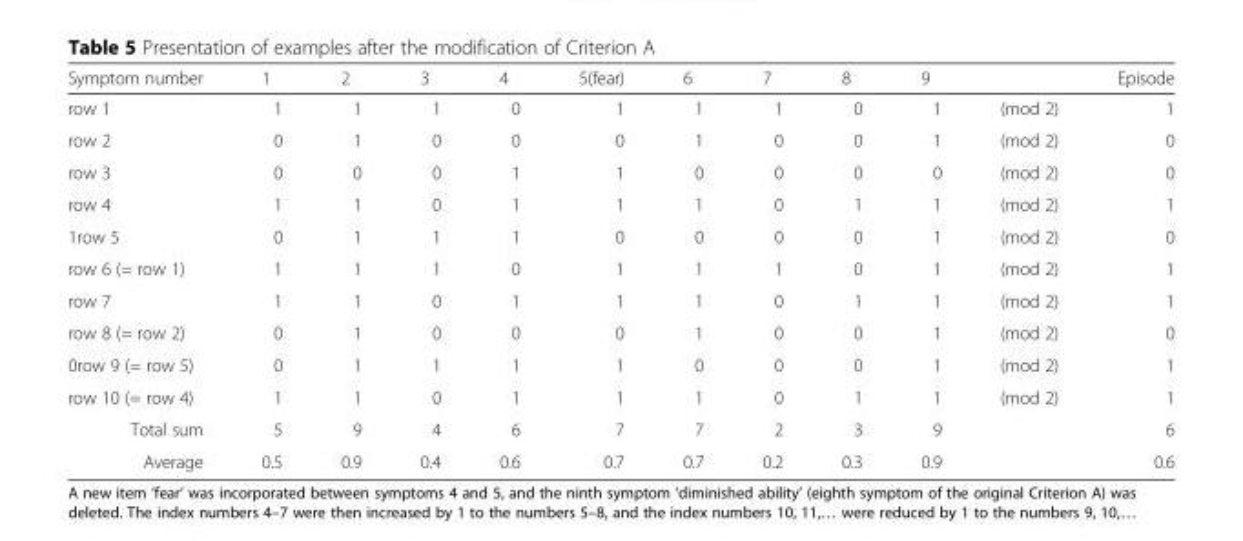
<table><thead><tr><td>Symptom number</td><td>1</td><td>2</td><td>3</td><td>4</td><td>5(fear)</td><td>6</td><td>7</td><td>8</td><td>9</td><td></td><td>Episode</td></tr></thead><tbody><tr><td>row 1</td><td>1</td><td>1</td><td>1</td><td>0</td><td>1</td><td>1</td><td>1</td><td>0</td><td>1</td><td>(mod 2)</td><td>1</td></tr><tr><td>row 2</td><td>0</td><td>1</td><td>0</td><td>0</td><td>0</td><td>1</td><td>0</td><td>0</td><td>1</td><td>(mod 2)</td><td>0</td></tr><tr><td>row 3</td><td>0</td><td>0</td><td>0</td><td>1</td><td>1</td><td>0</td><td>0</td><td>0</td><td>0</td><td>(mod 2)</td><td>0</td></tr><tr><td>row 4</td><td>1</td><td>1</td><td>0</td><td>1</td><td>1</td><td>1</td><td>0</td><td>1</td><td>1</td><td>(mod 2)</td><td>1</td></tr><tr><td>1row 5</td><td>0</td><td>1</td><td>1</td><td>1</td><td>0</td><td>0</td><td>0</td><td>0</td><td>1</td><td>(mod 2)</td><td>0</td></tr><tr><td>row 6 (= row 1)</td><td>1</td><td>1</td><td>1</td><td>0</td><td>1</td><td>1</td><td>1</td><td>0</td><td>1</td><td>(mod 2)</td><td>1</td></tr><tr><td>row 7</td><td>1</td><td>1</td><td>0</td><td>1</td><td>1</td><td>1</td><td>0</td><td>1</td><td>1</td><td>(mod 2)</td><td>1</td></tr><tr><td>row 8 (= row 2)</td><td>0</td><td>1</td><td>0</td><td>0</td><td>0</td><td>1</td><td>0</td><td>0</td><td>1</td><td>(mod 2)</td><td>0</td></tr><tr><td>0row 9 (= row 5)</td><td>0</td><td>1</td><td>1</td><td>1</td><td>1</td><td>0</td><td>0</td><td>0</td><td>1</td><td>(mod 2)</td><td>1</td></tr><tr><td>row 10 (= row 4)</td><td>1</td><td>1</td><td>0</td><td>1</td><td>1</td><td>1</td><td>0</td><td>1</td><td>1</td><td>(mod 2)</td><td>1</td></tr><tr><td>Total sum</td><td>5</td><td>9</td><td>4</td><td>6</td><td>7</td><td>7</td><td>2</td><td>3</td><td>9</td><td></td><td>6</td></tr><tr><td>Average</td><td>0.5</td><td>0.9</td><td>0.4</td><td>0.6</td><td>0.7</td><td>0.7</td><td>0.2</td><td>0.3</td><td>0.9</td><td></td><td>0.6</td></tr></tbody></table>